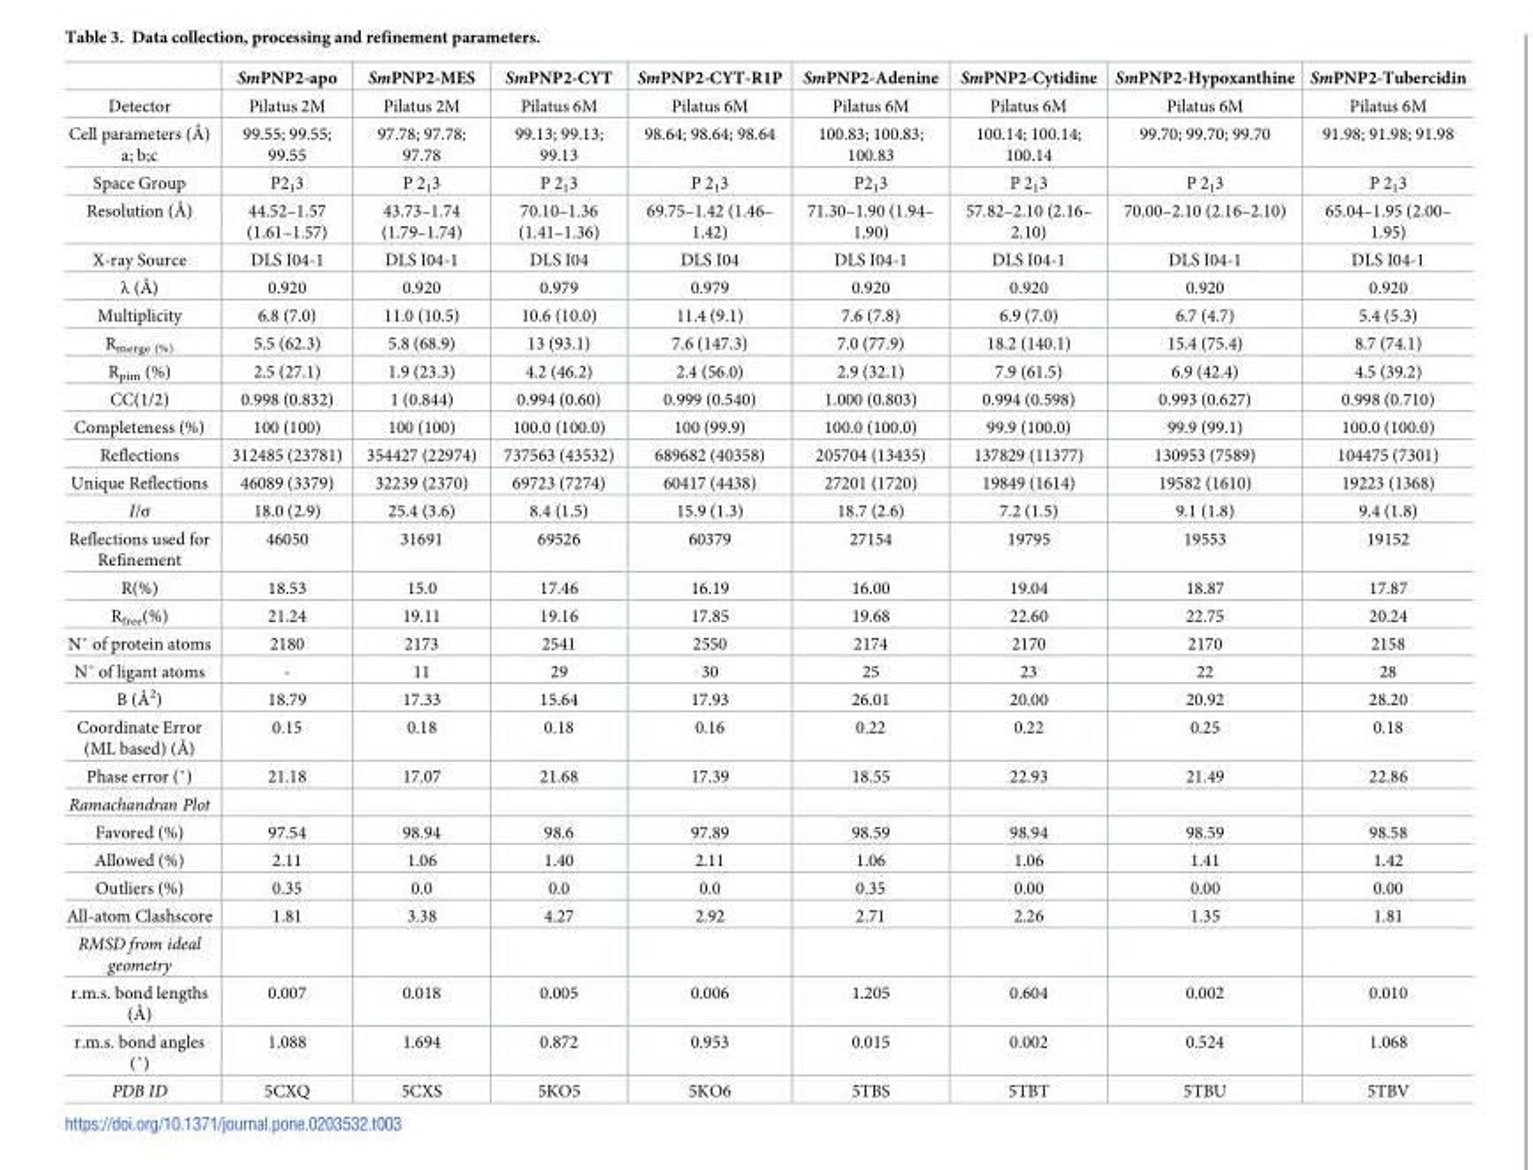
<table><thead><tr><td></td><td>SmPNP2-apo</td><td>SmPNP2-MES</td><td>SmPNP2-CYT</td><td>SmPNP2-CYT-R1P</td><td>SmPNP2-Adenine</td><td>SmPNP2-Cytidine</td><td>SmPNP2-Hypoxanthine</td><td>SmPNP2-Tubercidin</td></tr></thead><tbody><tr><td>Detector</td><td>Pilatus 2M</td><td>Pilatus 2M</td><td>Pilatus 6M</td><td>Pilatus 6M</td><td>Pilatus 6M</td><td>Pilatus 6M</td><td>Pilatus 6M</td><td>Pilatus 6M</td></tr><tr><td>Cell parameters (Å) a; b;c</td><td>99.55; 99.55; 99.55</td><td>97.78; 97.78; 97.78</td><td>99.13; 99.13; 99.13</td><td>98.64; 98.64; 98.64</td><td>100.83; 100.83; 100.83</td><td>100.14; 100.14; 100.14</td><td>99.70; 99.70; 99.70</td><td>91.98; 91.98; 91.98</td></tr><tr><td>Space Group</td><td>P2<sub>1</sub>3</td><td>P 2<sub>1</sub>3</td><td>P 2<sub>1</sub>3</td><td>P 2<sub>1</sub>3</td><td>P2<sub>1</sub>3</td><td>P 2<sub>1</sub>3</td><td>P 2<sub>1</sub>3</td><td>P 2<sub>1</sub>3</td></tr><tr><td>Resolution (Å)</td><td>44.52–1.57 (1.61–1.57)</td><td>43.73–1.74 (1.79–1.74)</td><td>70.10–1.36 (1.41–1.36)</td><td>69.75–1.42 (1.46– 1.42)</td><td>71.30–1.90 (1.94– 1.90)</td><td>57.82–2.10 (2.16– 2.10)</td><td>70.00–2.10 (2.16–2.10)</td><td>65.04–1.95 (2.00– 1.95)</td></tr><tr><td>X-ray Source</td><td>DLS I04-1</td><td>DLS I04-1</td><td>DLS I04</td><td>DLS I04</td><td>DLS I04-1</td><td>DLS I04-1</td><td>DLS I04-1</td><td>DLS I04-1</td></tr><tr><td>λ (Å)</td><td>0.920</td><td>0.920</td><td>0.979</td><td>0.979</td><td>0.920</td><td>0.920</td><td>0.920</td><td>0.920</td></tr><tr><td>Multiplicity</td><td>6.8 (7.0)</td><td>11.0 (10.5)</td><td>10.6 (10.0)</td><td>11.4 (9.1)</td><td>7.6 (7.8)</td><td>6.9 (7.0)</td><td>6.7 (4.7)</td><td>5.4 (5.3)</td></tr><tr><td>R<sub>merge (%)</sub></td><td>5.5 (62.3)</td><td>5.8 (68.9)</td><td>13 (93.1)</td><td>7.6 (147.3)</td><td>7.0 (77.9)</td><td>18.2 (140.1)</td><td>15.4 (75.4)</td><td>8.7 (74.1)</td></tr><tr><td>R<sub>pim</sub> (%)</td><td>2.5 (27.1)</td><td>1.9 (23.3)</td><td>4.2 (46.2)</td><td>2.4 (56.0)</td><td>2.9 (32.1)</td><td>7.9 (61.5)</td><td>6.9 (42.4)</td><td>4.5 (39.2)</td></tr><tr><td>CC(1/2)</td><td>0.998 (0.832)</td><td>1 (0.844)</td><td>0.994 (0.60)</td><td>0.999 (0.540)</td><td>1.000 (0.803)</td><td>0.994 (0.598)</td><td>0.993 (0.627)</td><td>0.998 (0.710)</td></tr><tr><td>Completeness (%)</td><td>100 (100)</td><td>100 (100)</td><td>100.0 (100.0)</td><td>100 (99.9)</td><td>100.0 (100.0)</td><td>99.9 (100.0)</td><td>99.9 (99.1)</td><td>100.0 (100.0)</td></tr><tr><td>Reflections</td><td>312485 (23781)</td><td>354427 (22974)</td><td>737563 (43532)</td><td>689682 (40358)</td><td>205704 (13435)</td><td>137829 (11377)</td><td>130953 (7589)</td><td>104475 (7301)</td></tr><tr><td>Unique Reflections</td><td>46089 (3379)</td><td>32239 (2370)</td><td>69723 (7274)</td><td>60417 (4438)</td><td>27201 (1720)</td><td>19849 (1614)</td><td>19582 (1610)</td><td>19223 (1368)</td></tr><tr><td>I/σ</td><td>18.0 (2.9)</td><td>25.4 (3.6)</td><td>8.4 (1.5)</td><td>15.9 (1.3)</td><td>18.7 (2.6)</td><td>7.2 (1.5)</td><td>9.1 (1.8)</td><td>9.4 (1.8)</td></tr><tr><td>Reflections used for Refinement</td><td>46050</td><td>31691</td><td>69526</td><td>60379</td><td>27154</td><td>19795</td><td>19553</td><td>19152</td></tr><tr><td>R(%)</td><td>18.53</td><td>15.0</td><td>17.46</td><td>16.19</td><td>16.00</td><td>19.04</td><td>18.87</td><td>17.87</td></tr><tr><td>R<sub>free</sub>(%)</td><td>21.24</td><td>19.11</td><td>19.16</td><td>17.85</td><td>19.68</td><td>22.60</td><td>22.75</td><td>20.24</td></tr><tr><td>N˚ of protein atoms</td><td>2180</td><td>2173</td><td>2541</td><td>2550</td><td>2174</td><td>2170</td><td>2170</td><td>2158</td></tr><tr><td>N˚ of ligant atoms</td><td>-</td><td>11</td><td>29</td><td>30</td><td>25</td><td>23</td><td>22</td><td>28</td></tr><tr><td>B (Å<sup>2</sup>)</td><td>18.79</td><td>17.33</td><td>15.64</td><td>17.93</td><td>26.01</td><td>20.00</td><td>20.92</td><td>28.20</td></tr><tr><td>Coordinate Error (ML based) (Å)</td><td>0.15</td><td>0.18</td><td>0.18</td><td>0.16</td><td>0.22</td><td>0.22</td><td>0.25</td><td>0.18</td></tr><tr><td>Phase error (˚)</td><td>21.18</td><td>17.07</td><td>21.68</td><td>17.39</td><td>18.55</td><td>22.93</td><td>21.49</td><td>22.86</td></tr><tr><td colspan="9">Ramachandran Plot</td></tr><tr><td>Favored (%)</td><td>97.54</td><td>98.94</td><td>98.6</td><td>97.89</td><td>98.59</td><td>98.94</td><td>98.59</td><td>98.58</td></tr><tr><td>Allowed (%)</td><td>2.11</td><td>1.06</td><td>1.40</td><td>2.11</td><td>1.06</td><td>1.06</td><td>1.41</td><td>1.42</td></tr><tr><td>Outliers (%)</td><td>0.35</td><td>0.0</td><td>0.0</td><td>0.0</td><td>0.35</td><td>0.00</td><td>0.00</td><td>0.00</td></tr><tr><td>All-atom Clashscore</td><td>1.81</td><td>3.38</td><td>4.27</td><td>2.92</td><td>2.71</td><td>2.26</td><td>1.35</td><td>1.81</td></tr><tr><td colspan="9">RMSD from ideal geometry</td></tr><tr><td>r.m.s. bond lengths (Å)</td><td>0.007</td><td>0.018</td><td>0.005</td><td>0.006</td><td>1.205</td><td>0.604</td><td>0.002</td><td>0.010</td></tr><tr><td>r.m.s. bond angles (˚)</td><td>1.088</td><td>1.694</td><td>0.872</td><td>0.953</td><td>0.015</td><td>0.002</td><td>0.524</td><td>1.068</td></tr><tr><td>PDB ID</td><td>5CXQ</td><td>5CXS</td><td>5KO5</td><td>5KO6</td><td>5TBS</td><td>5TBT</td><td>5TBU</td><td>5TBV</td></tr></tbody></table>